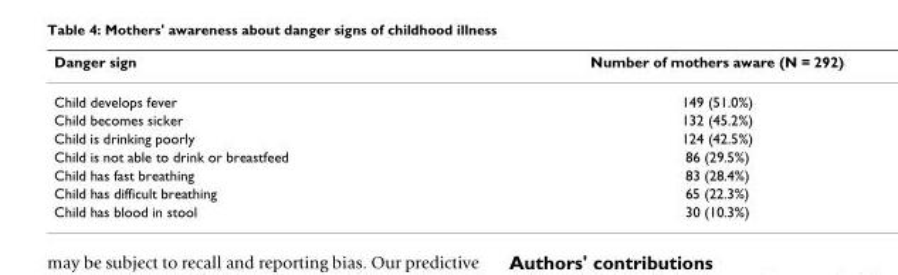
<table><thead><tr><td>Danger sign</td><td>Number of mothers aware (N = 292)</td></tr></thead><tbody><tr><td>Child develops fever</td><td>149 (51.0%)</td></tr><tr><td>Child becomes sicker</td><td>132 (45.2%)</td></tr><tr><td>Child is drinking poorly</td><td>124 (42.5%)</td></tr><tr><td>Child is not able to drink or breastfeed</td><td>86 (29.5%)</td></tr><tr><td>Child has fast breathing</td><td>83 (28.4%)</td></tr><tr><td>Child has difficult breathing</td><td>65 (22.3%)</td></tr><tr><td>Child has blood in stool</td><td>30 (10.3%)</td></tr></tbody></table>